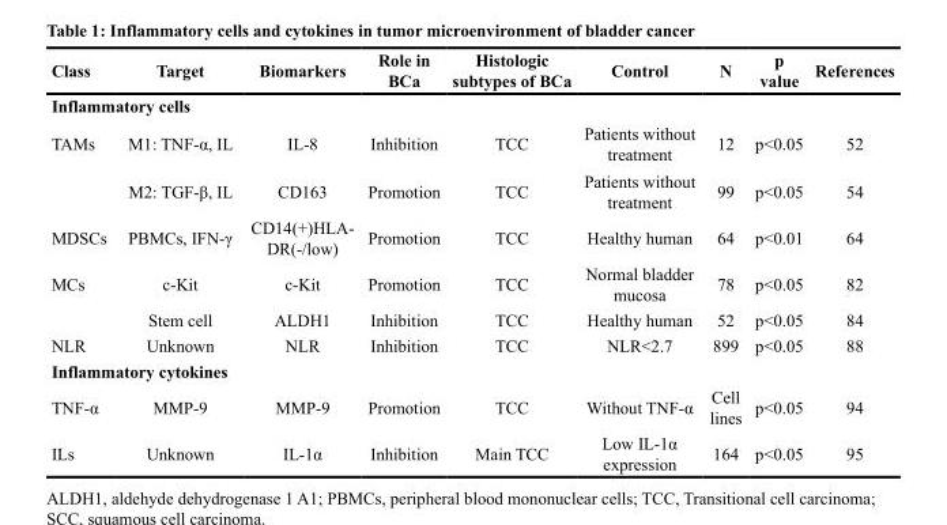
<table><thead><tr><td>Class</td><td>Target</td><td>Biomarkers</td><td>Role in BCa</td><td>Histologic subtypes of BCa</td><td>Control</td><td>N</td><td>p value</td><td>References</td></tr></thead><tbody><tr><td colspan="9">Inflammatory cells</td></tr><tr><td rowspan="2">TAMs</td><td>M1: TNF-α, IL</td><td>IL-8</td><td>Inhibition</td><td>TCC</td><td>Patients without treatment</td><td>12</td><td>p&lt;0.05</td><td>52</td></tr><tr><td>M2: TGF-β, IL</td><td>CD163</td><td>Promotion</td><td>TCC</td><td>Patients without treatment</td><td>99</td><td>p&lt;0.05</td><td>54</td></tr><tr><td>MDSCs</td><td>PBMCs, IFN-γ</td><td>CD14(+)HLA- DR(-/low)</td><td>Promotion</td><td>TCC</td><td>Healthy human</td><td>64</td><td>p&lt;0.01</td><td>64</td></tr><tr><td rowspan="2">MCs</td><td>c-Kit</td><td>c-Kit</td><td>Promotion</td><td>TCC</td><td>Normal bladder mucosa</td><td>78</td><td>p&lt;0.05</td><td>82</td></tr><tr><td>Stem cell</td><td>ALDH1</td><td>Inhibition</td><td>TCC</td><td>Healthy human</td><td>52</td><td>p&lt;0.05</td><td>84</td></tr><tr><td>NLR</td><td>Unknown</td><td>NLR</td><td>Inhibition</td><td>TCC</td><td>NLR&lt;2.7</td><td>899</td><td>p&lt;0.05</td><td>88</td></tr><tr><td colspan="9">Inflammatory cytokines</td></tr><tr><td>TNF-α</td><td>MMP-9</td><td>MMP-9</td><td>Promotion</td><td>TCC</td><td>Without TNF-α</td><td>Cell lines</td><td>p&lt;0.05</td><td>94</td></tr><tr><td>ILs</td><td>Unknown</td><td>IL-1α</td><td>Inhibition</td><td>Main TCC</td><td>Low IL-1α expression</td><td>164</td><td>p&lt;0.05</td><td>95</td></tr></tbody></table>